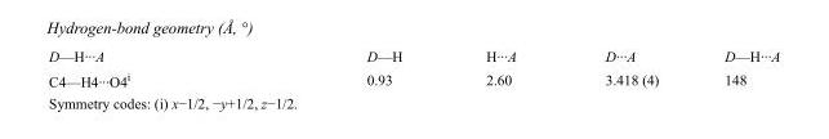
<table><tbody><tr><td>D—H···A</td><td>D—H</td><td>H···A</td><td>D···A</td><td>D—H···A</td></tr><tr><td>C4—H4···O4<sup>i</sup></td><td>0.93</td><td>2.60</td><td>3.418 (4)</td><td>148</td></tr></tbody></table>